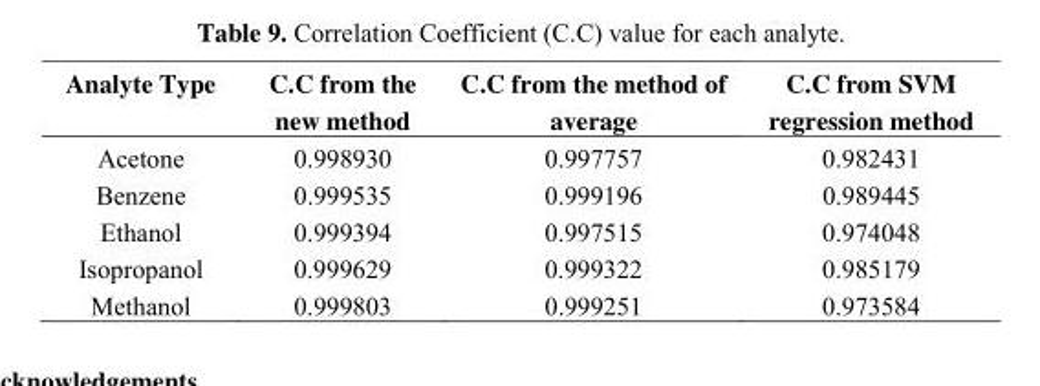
<table><thead><tr><td>Analyte Type</td><td>C.C from the new method</td><td>C.C from the method of average</td><td>C.C from SVM regression method</td></tr></thead><tbody><tr><td>Acetone</td><td>0.998930</td><td>0.997757</td><td>0.982431</td></tr><tr><td>Benzene</td><td>0.999535</td><td>0.999196</td><td>0.989445</td></tr><tr><td>Ethanol</td><td>0.999394</td><td>0.997515</td><td>0.974048</td></tr><tr><td>Isopropanol</td><td>0.999629</td><td>0.999322</td><td>0.985179</td></tr><tr><td>Methanol</td><td>0.999803</td><td>0.999251</td><td>0.973584</td></tr></tbody></table>